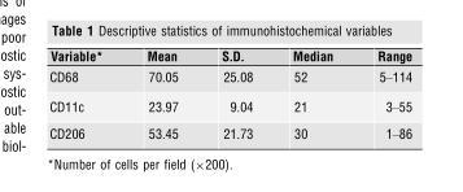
<table><thead><tr><td>Variable*</td><td>Mean</td><td>S.D.</td><td>Median</td><td>Range</td></tr></thead><tbody><tr><td>CD68</td><td>70.05</td><td>25.08</td><td>52</td><td>5–114</td></tr><tr><td>CD11c</td><td>23.97</td><td>9.04</td><td>21</td><td>3–55</td></tr><tr><td>CD206</td><td>53.45</td><td>21.73</td><td>30</td><td>1–86</td></tr></tbody></table>